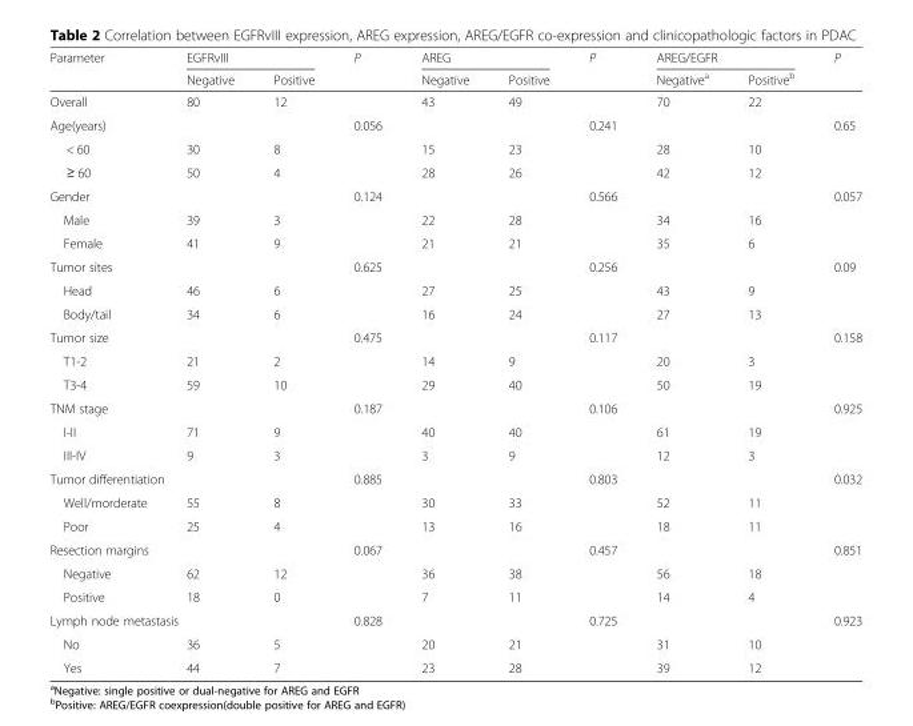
<table><thead><tr><td rowspan="2">Parameter</td><td colspan="2">EGFRvIII</td><td rowspan="2">P</td><td colspan="2">AREG</td><td rowspan="2">P</td><td colspan="2">AREG/EGFR</td><td rowspan="2">P</td></tr><tr><td>Negative</td><td>Positive</td><td>Negative</td><td>Positive</td><td>Negative<sup>a</sup></td><td>Positive<sup>b</sup></td></tr></thead><tbody><tr><td>Overall</td><td>80</td><td>12</td><td></td><td>43</td><td>49</td><td></td><td>70</td><td>22</td><td></td></tr><tr><td>Age(years)</td><td></td><td></td><td>0.056</td><td></td><td></td><td>0.241</td><td></td><td></td><td>0.65</td></tr><tr><td>&lt; 60</td><td>30</td><td>8</td><td></td><td>15</td><td>23</td><td></td><td>28</td><td>10</td><td></td></tr><tr><td>≥ 60</td><td>50</td><td>4</td><td></td><td>28</td><td>26</td><td></td><td>42</td><td>12</td><td></td></tr><tr><td>Gender</td><td></td><td></td><td>0.124</td><td></td><td></td><td>0.566</td><td></td><td></td><td>0.057</td></tr><tr><td>Male</td><td>39</td><td>3</td><td></td><td>22</td><td>28</td><td></td><td>34</td><td>16</td><td></td></tr><tr><td>Female</td><td>41</td><td>9</td><td></td><td>21</td><td>21</td><td></td><td>35</td><td>6</td><td></td></tr><tr><td>Tumor sites</td><td></td><td></td><td>0.625</td><td></td><td></td><td>0.256</td><td></td><td></td><td>0.09</td></tr><tr><td>Head</td><td>46</td><td>6</td><td></td><td>27</td><td>25</td><td></td><td>43</td><td>9</td><td></td></tr><tr><td>Body/tail</td><td>34</td><td>6</td><td></td><td>16</td><td>24</td><td></td><td>27</td><td>13</td><td></td></tr><tr><td>Tumor size</td><td></td><td></td><td>0.475</td><td></td><td></td><td>0.117</td><td></td><td></td><td>0.158</td></tr><tr><td>T1-2</td><td>21</td><td>2</td><td></td><td>14</td><td>9</td><td></td><td>20</td><td>3</td><td></td></tr><tr><td>T3-4</td><td>59</td><td>10</td><td></td><td>29</td><td>40</td><td></td><td>50</td><td>19</td><td></td></tr><tr><td>TNM stage</td><td></td><td></td><td>0.187</td><td></td><td></td><td>0.106</td><td></td><td></td><td>0.925</td></tr><tr><td>I-II</td><td>71</td><td>9</td><td></td><td>40</td><td>40</td><td></td><td>61</td><td>19</td><td></td></tr><tr><td>III-IV</td><td>9</td><td>3</td><td></td><td>3</td><td>9</td><td></td><td>12</td><td>3</td><td></td></tr><tr><td colspan="2">Tumor differentiation</td><td></td><td>0.885</td><td></td><td></td><td>0.803</td><td></td><td></td><td>0.032</td></tr><tr><td>Well/morderate</td><td>55</td><td>8</td><td></td><td>30</td><td>33</td><td></td><td>52</td><td>11</td><td></td></tr><tr><td>Poor</td><td>25</td><td>4</td><td></td><td>13</td><td>16</td><td></td><td>18</td><td>11</td><td></td></tr><tr><td colspan="2">Resection margins</td><td></td><td>0.067</td><td></td><td></td><td>0.457</td><td></td><td></td><td>0.851</td></tr><tr><td>Negative</td><td>62</td><td>12</td><td></td><td>36</td><td>38</td><td></td><td>56</td><td>18</td><td></td></tr><tr><td>Positive</td><td>18</td><td>0</td><td></td><td>7</td><td>11</td><td></td><td>14</td><td>4</td><td></td></tr><tr><td colspan="2">Lymph node metastasis</td><td></td><td>0.828</td><td></td><td></td><td>0.725</td><td></td><td></td><td>0.923</td></tr><tr><td>No</td><td>36</td><td>5</td><td></td><td>20</td><td>21</td><td></td><td>31</td><td>10</td><td></td></tr><tr><td>Yes</td><td>44</td><td>7</td><td></td><td>23</td><td>28</td><td></td><td>39</td><td>12</td><td></td></tr></tbody></table>